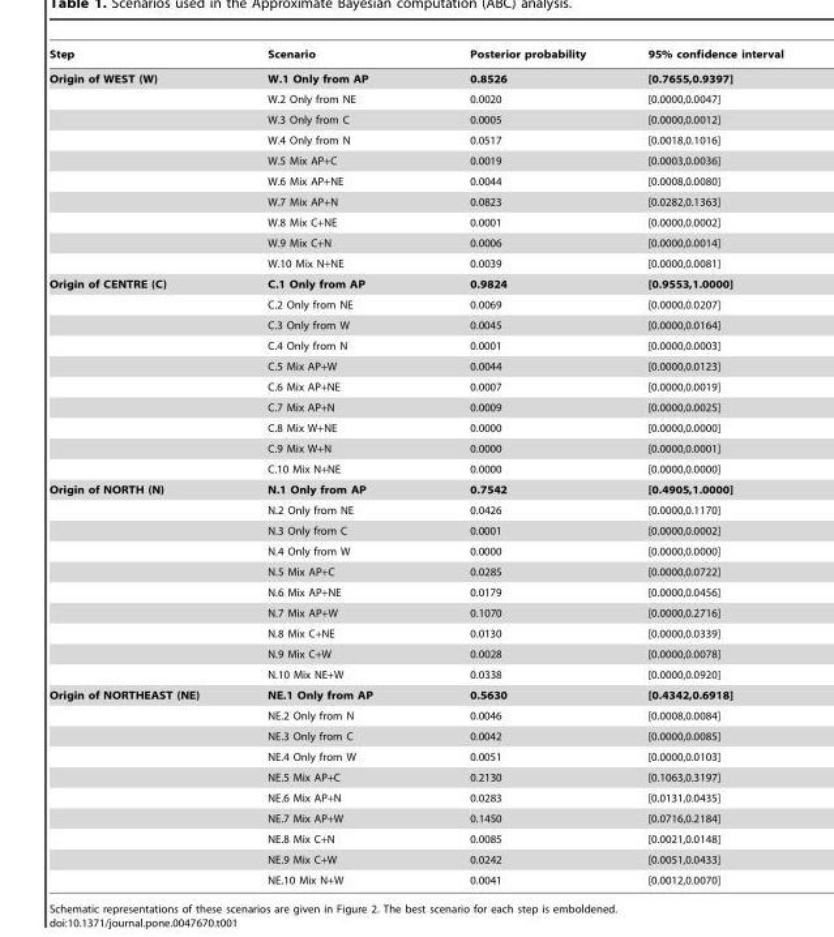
<table><thead><tr><td>Step</td><td>Scenario</td><td>Posterior probability</td><td>95% confidence interval</td></tr></thead><tbody><tr><td rowspan="10">Origin of WEST (W)</td><td>W.1 Only from AP</td><td>0.8526</td><td>[0.7655,0.9397]</td></tr><tr><td>W.2 Only from NE</td><td>0.0020</td><td>[0.0000,0.0047]</td></tr><tr><td>W.3 Only from C</td><td>0.0005</td><td>[0.0000,0.0012]</td></tr><tr><td>W.4 Only from N</td><td>0.0517</td><td>[0.0018,0.1016]</td></tr><tr><td>W.5 Mix AP+C</td><td>0.0019</td><td>[0.0003,0.0036]</td></tr><tr><td>W.6 Mix AP+NE</td><td>0.0044</td><td>[0.0008,0.0080]</td></tr><tr><td>W.7 Mix AP+N</td><td>0.0823</td><td>[0.0282,0.1363]</td></tr><tr><td>W.8 Mix C+NE</td><td>0.0001</td><td>[0.0000,0.0002]</td></tr><tr><td>W.9 Mix C+N</td><td>0.0006</td><td>[0.0000,0.0014]</td></tr><tr><td>W.10 Mix N+NE</td><td>0.0039</td><td>[0.0000,0.0081]</td></tr><tr><td rowspan="10">Origin of CENTRE (C)</td><td>C.1 Only from AP</td><td>0.9824</td><td>[0.9553,1.0000]</td></tr><tr><td>C.2 Only from NE</td><td>0.0069</td><td>[0.0000,0.0207]</td></tr><tr><td>C.3 Only from W</td><td>0.0045</td><td>[0.0000,0.0164]</td></tr><tr><td>C.4 Only from N</td><td>0.0001</td><td>[0.0000,0.0003]</td></tr><tr><td>C.5 Mix AP+W</td><td>0.0044</td><td>[0.0000,0.0123]</td></tr><tr><td>C.6 Mix AP+NE</td><td>0.0007</td><td>[0.0000,0.0019]</td></tr><tr><td>C.7 Mix AP+N</td><td>0.0009</td><td>[0.0000,0.0025]</td></tr><tr><td>C.8 Mix W+NE</td><td>0.0000</td><td>[0.0000,0.0000]</td></tr><tr><td>C.9 Mix W+N</td><td>0.0000</td><td>[0.0000,0.0001]</td></tr><tr><td>C.10 Mix N+NE</td><td>0.0000</td><td>[0.0000,0.0000]</td></tr><tr><td rowspan="10">Origin of NORTH (N)</td><td>N.1 Only from AP</td><td>0.7542</td><td>[0.4905,1.0000]</td></tr><tr><td>N.2 Only from NE</td><td>0.0426</td><td>[0.0000,0.1170]</td></tr><tr><td>N.3 Only from C</td><td>0.0001</td><td>[0.0000,0.0002]</td></tr><tr><td>N.4 Only from W</td><td>0.0000</td><td>[0.0000,0.0000]</td></tr><tr><td>N.5 Mix AP+C</td><td>0.0285</td><td>[0.0000,0.0722]</td></tr><tr><td>N.6 Mix AP+NE</td><td>0.0179</td><td>[0.0000,0.0456]</td></tr><tr><td>N.7 Mix AP+W</td><td>0.1070</td><td>[0.0000,0.2716]</td></tr><tr><td>N.8 Mix C+NE</td><td>0.0130</td><td>[0.0000,0.0339]</td></tr><tr><td>N.9 Mix C+W</td><td>0.0028</td><td>[0.0000,0.0078]</td></tr><tr><td>N.10 Mix NE+W</td><td>0.0338</td><td>[0.0000,0.0920]</td></tr><tr><td rowspan="10">Origin of NORTHEAST (NE)</td><td>NE.1 Only from AP</td><td>0.5630</td><td>[0.4342,0.6918]</td></tr><tr><td>NE.2 Only from N</td><td>0.0046</td><td>[0.0008,0.0084]</td></tr><tr><td>NE.3 Only from C</td><td>0.0042</td><td>[0.0000,0.0085]</td></tr><tr><td>NE.4 Only from W</td><td>0.0051</td><td>[0.0000,0.0103]</td></tr><tr><td>NE.5 Mix AP+C</td><td>0.2130</td><td>[0.1063,0.3197]</td></tr><tr><td>NE.6 Mix AP+N</td><td>0.0283</td><td>[0.0131,0.0435]</td></tr><tr><td>NE.7 Mix AP+W</td><td>0.1450</td><td>[0.0716,0.2184]</td></tr><tr><td>NE.8 Mix C+N</td><td>0.0085</td><td>[0.0021,0.0148]</td></tr><tr><td>NE.9 Mix C+W</td><td>0.0242</td><td>[0.0051,0.0433]</td></tr><tr><td>NE.10 Mix N+W</td><td>0.0041</td><td>[0.0012,0.0070]</td></tr></tbody></table>